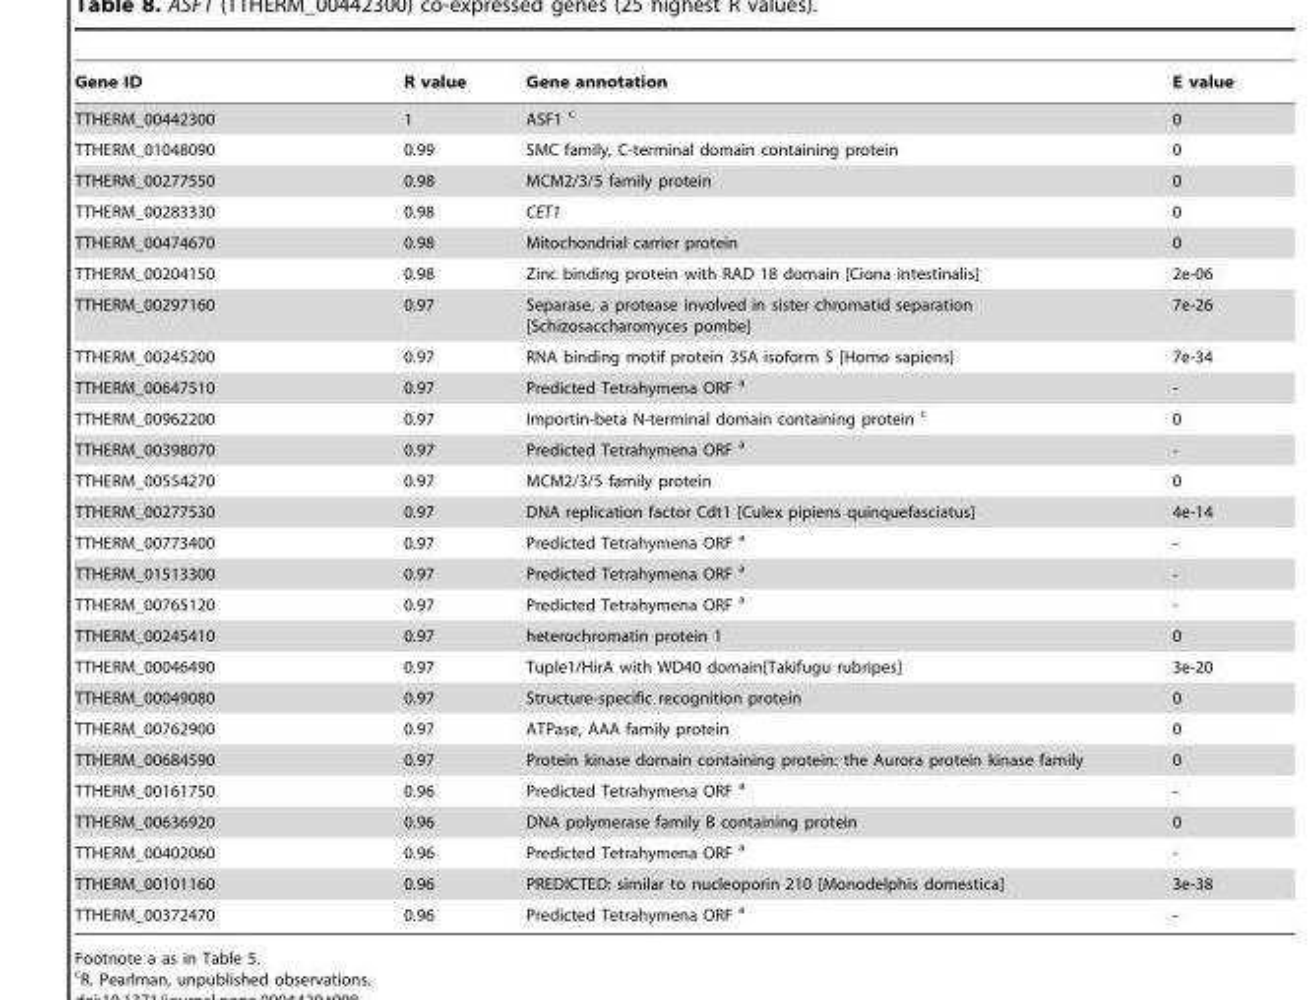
<table><thead><tr><td>Gene ID</td><td>R value</td><td>Gene annotation</td><td>E value</td></tr></thead><tbody><tr><td>TTHERM_00442300</td><td>1</td><td>ASF1 c</td><td>0</td></tr><tr><td>TTHERM_01048090</td><td>0.99</td><td>SMC family, C-terminal domain containing protein</td><td>0</td></tr><tr><td>TTHERM_00277550</td><td>0.98</td><td>MCM2/3/5 family protein</td><td>0</td></tr><tr><td>TTHERM_00283330</td><td>0.98</td><td>CET1</td><td>0</td></tr><tr><td>TTHERM_00474670</td><td>0.98</td><td>Mitochondrial carrier protein</td><td>0</td></tr><tr><td>TTHERM_00204150</td><td>0.98</td><td>Zinc binding protein with RAD 18 domain [Ciona intestinalis]</td><td>2e-06</td></tr><tr><td>TTHERM_00297160</td><td>0.97</td><td>Separase, a protease involved in sister chromatid separation [Schizosaccharomyces pombe]</td><td>7e-26</td></tr><tr><td>TTHERM_00245200</td><td>0.97</td><td>RNA binding motif protein 35A isoform 5 [Homo sapiens]</td><td>7e-34</td></tr><tr><td>TTHERM_00647510</td><td>0.97</td><td>Predicted Tetrahymena ORF <sup>a</sup></td><td>-</td></tr><tr><td>TTHERM_00962200</td><td>0.97</td><td>Importin-beta N-terminal domain containing protein c</td><td>0</td></tr><tr><td>TTHERM_00398070</td><td>0.97</td><td>Predicted Tetrahymena ORF <sup>a</sup></td><td>-</td></tr><tr><td>TTHERM_00554270</td><td>0.97</td><td>MCM2/3/5 family protein</td><td>0</td></tr><tr><td>TTHERM_00277530</td><td>0.97</td><td>DNA replication factor Cdt1 [Culex pipiens quinquefasciatus]</td><td>4e-14</td></tr><tr><td>TTHERM_00773400</td><td>0.97</td><td>Predicted Tetrahymena ORF <sup>a</sup></td><td>-</td></tr><tr><td>TTHERM_01513300</td><td>0.97</td><td>Predicted Tetrahymena ORF <sup>a</sup></td><td>-</td></tr><tr><td>TTHERM_00765120</td><td>0.97</td><td>Predicted Tetrahymena ORF <sup>a</sup></td><td>-</td></tr><tr><td>TTHERM_00245410</td><td>0.97</td><td>heterochromatin protein 1</td><td>0</td></tr><tr><td>TTHERM_00046490</td><td>0.97</td><td>Tuple1/HirA with WD40 domain[Takifugu rubripes]</td><td>3e-20</td></tr><tr><td>TTHERM_00049080</td><td>0.97</td><td>Structure-specific recognition protein</td><td>0</td></tr><tr><td>TTHERM_00762900</td><td>0.97</td><td>ATPase, AAA family protein</td><td>0</td></tr><tr><td>TTHERM_00684590</td><td>0.97</td><td>Protein kinase domain containing protein: the Aurora protein kinase family</td><td>0</td></tr><tr><td>TTHERM_00161750</td><td>0.96</td><td>Predicted Tetrahymena ORF <sup>a</sup></td><td>-</td></tr><tr><td>TTHERM_00636920</td><td>0.96</td><td>DNA polymerase family B containing protein</td><td>0</td></tr><tr><td>TTHERM_00402060</td><td>0.96</td><td>Predicted Tetrahymena ORF <sup>a</sup></td><td>-</td></tr><tr><td>TTHERM_00101160</td><td>0.96</td><td>PREDICTED: similar to nucleoporin 210 [Monodelphis domestica]</td><td>3e-38</td></tr><tr><td>TTHERM_00372470</td><td>0.96</td><td>Predicted Tetrahymena ORF <sup>a</sup></td><td>-</td></tr></tbody></table>